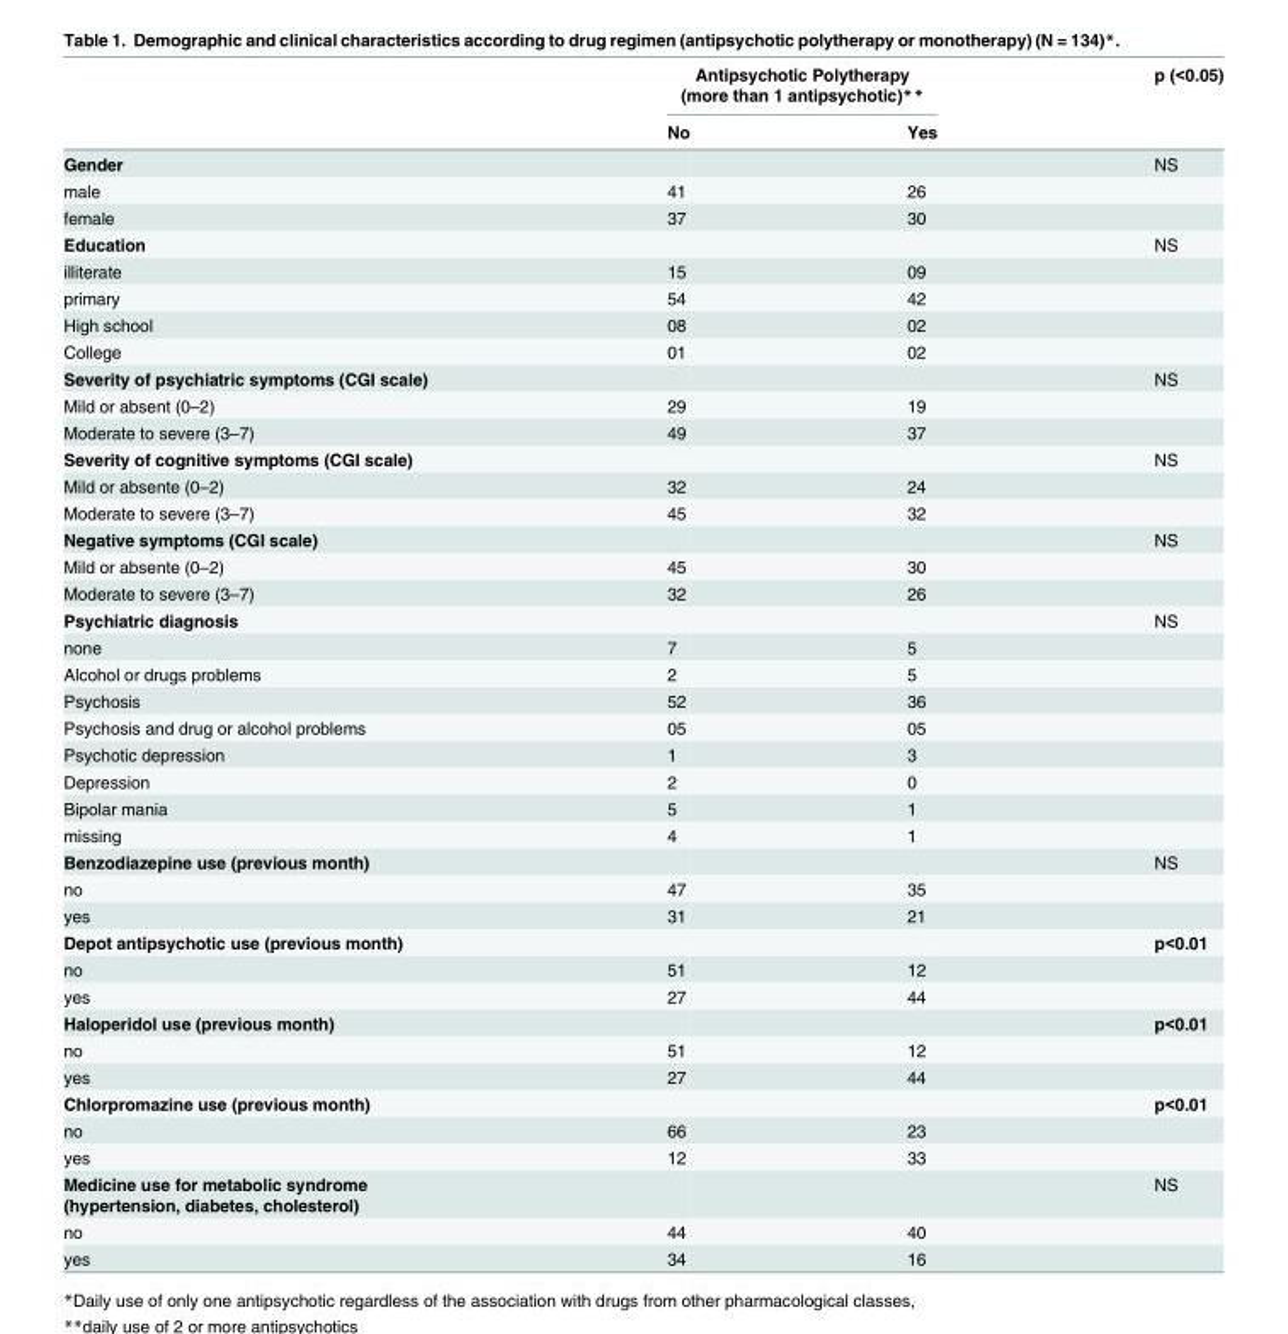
<table><thead><tr><td rowspan="2"></td><td colspan="2">Antipsychotic Polytherapy (more than 1 antipsychotic)**</td><td rowspan="2">p (&lt;0.05)</td></tr><tr><td>No</td><td>Yes</td></tr></thead><tbody><tr><td>Gender</td><td></td><td></td><td>NS</td></tr><tr><td>male</td><td>41</td><td>26</td><td></td></tr><tr><td>female</td><td>37</td><td>30</td><td></td></tr><tr><td>Education</td><td></td><td></td><td>NS</td></tr><tr><td>illiterate</td><td>15</td><td>09</td><td></td></tr><tr><td>primary</td><td>54</td><td>42</td><td></td></tr><tr><td>High school</td><td>08</td><td>02</td><td></td></tr><tr><td>College</td><td>01</td><td>02</td><td></td></tr><tr><td>Severity of psychiatric symptoms (CGI scale)</td><td></td><td></td><td>NS</td></tr><tr><td>Mild or absent (0–2)</td><td>29</td><td>19</td><td></td></tr><tr><td>Moderate to severe (3–7)</td><td>49</td><td>37</td><td></td></tr><tr><td>Severity of cognitive symptoms (CGI scale)</td><td></td><td></td><td>NS</td></tr><tr><td>Mild or absente (0–2)</td><td>32</td><td>24</td><td></td></tr><tr><td>Moderate to severe (3–7)</td><td>45</td><td>32</td><td></td></tr><tr><td>Negative symptoms (CGI scale)</td><td></td><td></td><td>NS</td></tr><tr><td>Mild or absente (0–2)</td><td>45</td><td>30</td><td></td></tr><tr><td>Moderate to severe (3–7)</td><td>32</td><td>26</td><td></td></tr><tr><td>Psychiatric diagnosis</td><td></td><td></td><td>NS</td></tr><tr><td>none</td><td>7</td><td>5</td><td></td></tr><tr><td>Alcohol or drugs problems</td><td>2</td><td>5</td><td></td></tr><tr><td>Psychosis</td><td>52</td><td>36</td><td></td></tr><tr><td>Psychosis and drug or alcohol problems</td><td>05</td><td>05</td><td></td></tr><tr><td>Psychotic depression</td><td>1</td><td>3</td><td></td></tr><tr><td>Depression</td><td>2</td><td>0</td><td></td></tr><tr><td>Bipolar mania</td><td>5</td><td>1</td><td></td></tr><tr><td>missing</td><td>4</td><td>1</td><td></td></tr><tr><td>Benzodiazepine use (previous month)</td><td></td><td></td><td>NS</td></tr><tr><td>no</td><td>47</td><td>35</td><td></td></tr><tr><td>yes</td><td>31</td><td>21</td><td></td></tr><tr><td>Depot antipsychotic use (previous month)</td><td></td><td></td><td>p&lt;0.01</td></tr><tr><td>no</td><td>51</td><td>12</td><td></td></tr><tr><td>yes</td><td>27</td><td>44</td><td></td></tr><tr><td>Haloperidol use (previous month)</td><td></td><td></td><td>p&lt;0.01</td></tr><tr><td>no</td><td>51</td><td>12</td><td></td></tr><tr><td>yes</td><td>27</td><td>44</td><td></td></tr><tr><td>Chlorpromazine use (previous month)</td><td></td><td></td><td>p&lt;0.01</td></tr><tr><td>no</td><td>66</td><td>23</td><td></td></tr><tr><td>yes</td><td>12</td><td>33</td><td></td></tr><tr><td>Medicine use for metabolic syndrome (hypertension, diabetes, cholesterol)</td><td></td><td></td><td>NS</td></tr><tr><td>no</td><td>44</td><td>40</td><td></td></tr><tr><td>yes</td><td>34</td><td>16</td><td></td></tr></tbody></table>